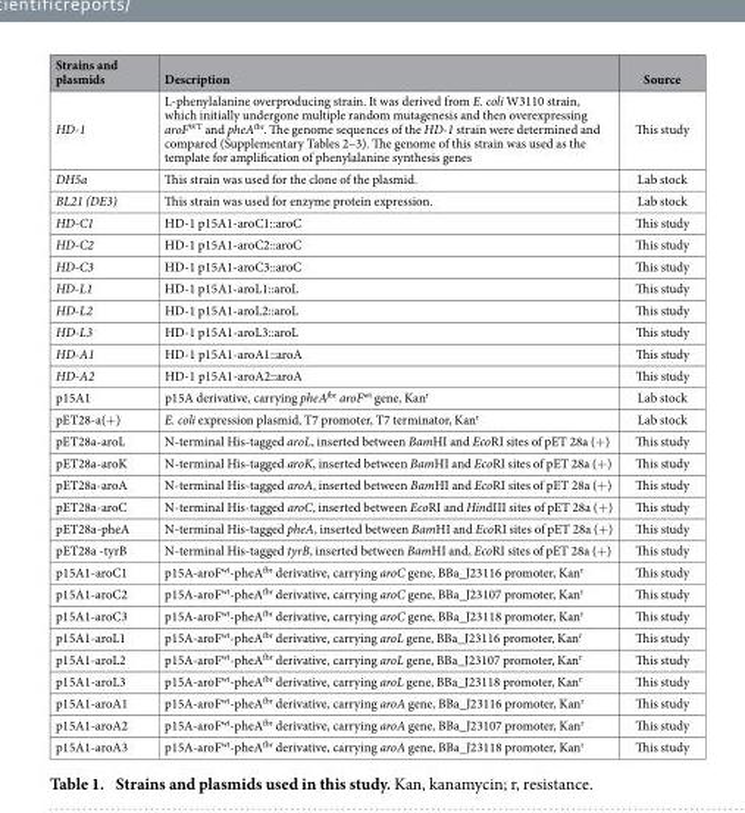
<table><thead><tr><td>Strains and plasmids</td><td>Description</td><td>Source</td></tr></thead><tbody><tr><td>HD-1</td><td>L-phenylalanine overproducing strain. It was derived from E. coli W3110 strain, which initially undergone multiple random mutagenesis and then overexpressing aroF<sup>WT</sup> and pheA<sup>fbr</sup>. The genome sequences of the HD-1 strain were determined and compared (Supplementary Tables 2–3). The genome of this strain was used as the template for amplification of phenylalanine synthesis genes</td><td>This study</td></tr><tr><td>DH5a</td><td>This strain was used for the clone of the plasmid.</td><td>Lab stock</td></tr><tr><td>BL21 (DE3)</td><td>This strain was used for enzyme protein expression.</td><td>Lab stock</td></tr><tr><td>HD-C1</td><td>HD-1 p15A1-aroC1::aroC</td><td>This study</td></tr><tr><td>HD-C2</td><td>HD-1 p15A1-aroC2::aroC</td><td>This study</td></tr><tr><td>HD-C3</td><td>HD-1 p15A1-aroC3::aroC</td><td>This study</td></tr><tr><td>HD-L1</td><td>HD-1 p15A1-aroL1::aroL</td><td>This study</td></tr><tr><td>HD-L2</td><td>HD-1 p15A1-aroL2::aroL</td><td>This study</td></tr><tr><td>HD-L3</td><td>HD-1 p15A1-aroL3::aroL</td><td>This study</td></tr><tr><td>HD-A1</td><td>HD-1 p15A1-aroA1::aroA</td><td>This study</td></tr><tr><td>HD-A2</td><td>HD-1 p15A1-aroA2::aroA</td><td>This study</td></tr><tr><td>p15A1</td><td>p15A derivative, carrying pheA<sup>fbr</sup> aroF<sup>wt</sup> gene, Kan<sup>r</sup></td><td>Lab stock</td></tr><tr><td>pET28-a(+ )</td><td>E. coli expression plasmid, T7 promoter, T7 terminator, Kan<sup>r</sup></td><td>Lab stock</td></tr><tr><td>pET28a-aroL</td><td>N-terminal His-tagged aroL, inserted between BamHI and EcoRI sites of pET 28a (+ )</td><td>This study</td></tr><tr><td>pET28a-aroK</td><td>N-terminal His-tagged aroK, inserted between BamHI and EcoRI sites of pET 28a (+ )</td><td>This study</td></tr><tr><td>pET28a-aroA</td><td>N-terminal His-tagged aroA, inserted between BamHI and EcoRI sites of pET 28a (+ )</td><td>This study</td></tr><tr><td>pET28a-aroC</td><td>N-terminal His-tagged aroC, inserted between EcoRI and HindIII sites of pET 28a (+ )</td><td>This study</td></tr><tr><td>pET28a-pheA</td><td>N-terminal His-tagged pheA, inserted between BamHI and EcoRI sites of pET 28a (+ )</td><td>This study</td></tr><tr><td>pET28a -tyrB</td><td>N-terminal His-tagged tyrB, inserted between BamHI and, EcoRI sites of pET 28a (+ )</td><td>This study</td></tr><tr><td>p15A1-aroC1</td><td>p15A-aroF<sup>wt</sup>-pheA<sup>fbr</sup> derivative, carrying aroC gene, BBa_J23116 promoter, Kan<sup>r</sup></td><td>This study</td></tr><tr><td>p15A1-aroC2</td><td>p15A-aroF<sup>wt</sup>-pheA<sup>fbr</sup> derivative, carrying aroC gene, BBa_J23107 promoter, Kan<sup>r</sup></td><td>This study</td></tr><tr><td>p15A1-aroC3</td><td>p15A-aroF<sup>wt</sup>-pheA<sup>fbr</sup> derivative, carrying aroC gene, BBa_J23118 promoter, Kan<sup>r</sup></td><td>This study</td></tr><tr><td>p15A1-aroL1</td><td>p15A-aroF<sup>wt</sup>-pheA<sup>fbr</sup> derivative, carrying aroL gene, BBa_J23116 promoter, Kan<sup>r</sup></td><td>This study</td></tr><tr><td>p15A1-aroL2</td><td>p15A-aroF<sup>wt</sup>-pheA<sup>fbr</sup> derivative, carrying aroL gene, BBa_J23107 promoter, Kan<sup>r</sup></td><td>This study</td></tr><tr><td>p15A1-aroL3</td><td>p15A-aroF<sup>wt</sup>-pheA<sup>fbr</sup> derivative, carrying aroL gene, BBa_J23118 promoter, Kan<sup>r</sup></td><td>This study</td></tr><tr><td>p15A1-aroA1</td><td>p15A-aroF<sup>wt</sup>-pheA<sup>fbr</sup> derivative, carrying aroA gene, BBa_J23116 promoter, Kan<sup>r</sup></td><td>This study</td></tr><tr><td>p15A1-aroA2</td><td>p15A-aroF<sup>wt</sup>-pheA<sup>fbr</sup> derivative, carrying aroA gene, BBa_J23107 promoter, Kan<sup>r</sup></td><td>This study</td></tr><tr><td>p15A1-aroA3</td><td>p15A-aroF<sup>wt</sup>-pheA<sup>fbr</sup> derivative, carrying aroA gene, BBa_J23118 promoter, Kan<sup>r</sup></td><td>This study</td></tr></tbody></table>